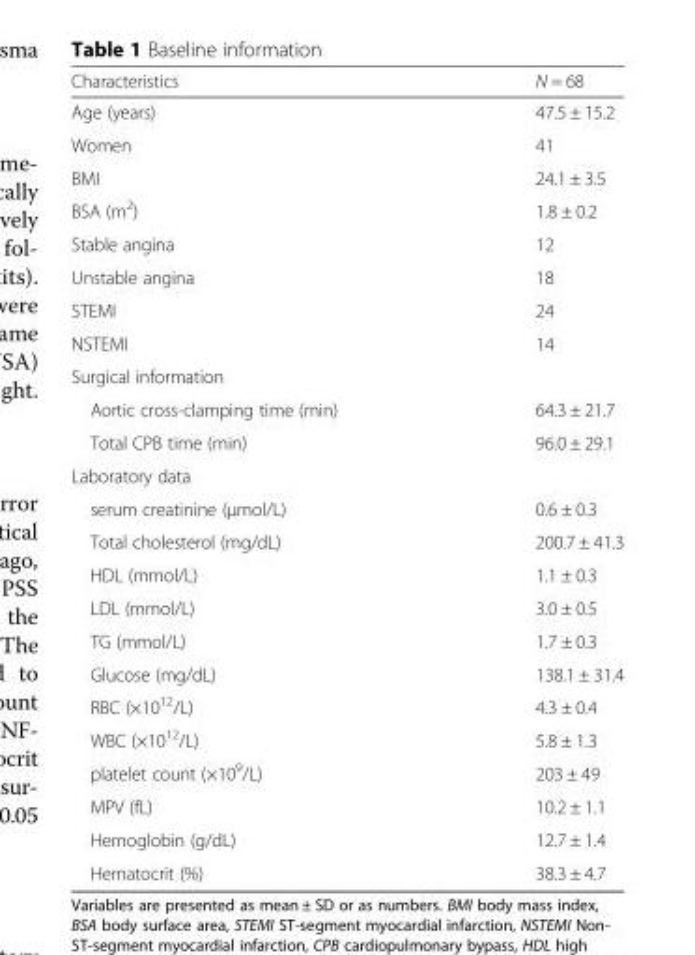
<table><thead><tr><td>Characteristics</td><td>N = 68</td></tr></thead><tbody><tr><td>Age (years)</td><td>47.5 ± 15.2</td></tr><tr><td>Women</td><td>41</td></tr><tr><td>BMI</td><td>24.1 ± 3.5</td></tr><tr><td>BSA (m<sup>2</sup>)</td><td>1.8 ± 0.2</td></tr><tr><td>Stable angina</td><td>12</td></tr><tr><td>Unstable angina</td><td>18</td></tr><tr><td>STEMI</td><td>24</td></tr><tr><td>NSTEMI</td><td>14</td></tr><tr><td colspan="2">Surgical information</td></tr><tr><td>Aortic cross-clamping time (min)</td><td>64.3 ± 21.7</td></tr><tr><td>Total CPB time (min)</td><td>96.0 ± 29.1</td></tr><tr><td colspan="2">Laboratory data</td></tr><tr><td>serum creatinine (μmol/L)</td><td>0.6 ± 0.3</td></tr><tr><td>Total cholesterol (mg/dL)</td><td>200.7 ± 41.3</td></tr><tr><td>HDL (mmol/L)</td><td>1.1 ± 0.3</td></tr><tr><td>LDL (mmol/L)</td><td>3.0 ± 0.5</td></tr><tr><td>TG (mmol/L)</td><td>1.7 ± 0.3</td></tr><tr><td>Glucose (mg/dL)</td><td>138.1 ± 31.4</td></tr><tr><td>RBC (×10<sup>12</sup>/L)</td><td>4.3 ± 0.4</td></tr><tr><td>WBC (×10<sup>12</sup>/L)</td><td>5.8 ± 1.3</td></tr><tr><td>platelet count (×10<sup>9</sup>/L)</td><td>203 ± 49</td></tr><tr><td>MPV (fL)</td><td>10.2 ± 1.1</td></tr><tr><td>Hemoglobin (g/dL)</td><td>12.7 ± 1.4</td></tr><tr><td>Hematocrit (%)</td><td>38.3 ± 4.7</td></tr></tbody></table>